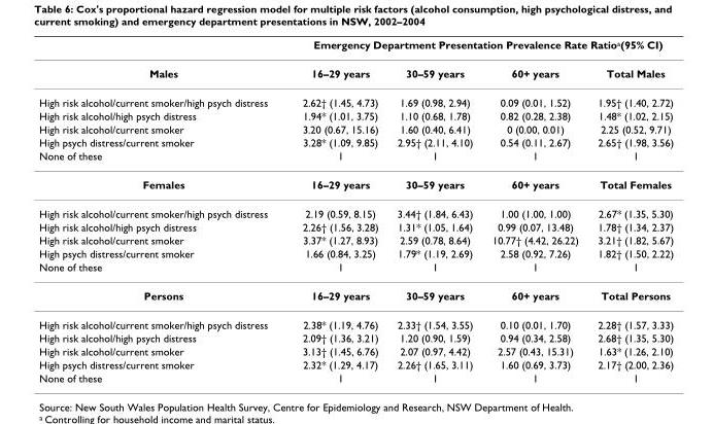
<table><thead><tr><td rowspan="2">Males</td><td colspan="4">Emergency Department Presentation Prevalence Rate Ratio<sup>a</sup>(95% CI)</td></tr><tr><td>16–29 years</td><td>30–59 years</td><td>60+ years</td><td>Total Males</td></tr></thead><tbody><tr><td>High risk alcohol/current smoker/high psych distress</td><td>2.62† (1.45, 4.73)</td><td>1.69 (0.98, 2.94)</td><td>0.09 (0.01, 1.52)</td><td>1.95† (1.40, 2.72)</td></tr><tr><td>High risk alcohol/high psych distress</td><td>1.94* (1.01, 3.75)</td><td>1.10 (0.68, 1.78)</td><td>0.82 (0.28, 2.38)</td><td>1.48* (1.02, 2.15)</td></tr><tr><td>High risk alcohol/current smoker</td><td>3.20 (0.67, 15.16)</td><td>1.60 (0.40, 6.41)</td><td>0 (0.00, 0.01)</td><td>2.25 (0.52, 9.71)</td></tr><tr><td>High psych distress/current smoker</td><td>3.28* (1.09, 9.85)</td><td>2.95† (2.11, 4.10)</td><td>0.54 (0.11, 2.67)</td><td>2.65† (1.98, 3.56)</td></tr><tr><td>None of these</td><td>1</td><td>1</td><td>1</td><td>1</td></tr><tr><td>Females</td><td>16–29 years</td><td>30–59 years</td><td>60+ years</td><td>Total Females</td></tr><tr><td>High risk alcohol/current smoker/high psych distress</td><td>2.19 (0.59, 8.15)</td><td>3.44† (1.84, 6.43)</td><td>1.00 (1.00, 1.00)</td><td>2.67* (1.35, 5.30)</td></tr><tr><td>High risk alcohol/high psych distress</td><td>2.26† (1.56, 3.28)</td><td>1.31* (1.05, 1.64)</td><td>0.99 (0.07, 13.48)</td><td>1.78† (1.34, 2.37)</td></tr><tr><td>High risk alcohol/current smoker</td><td>3.37* (1.27, 8.93)</td><td>2.59 (0.78, 8.64)</td><td>10.77† (4.42, 26.22)</td><td>3.21† (1.82, 5.67)</td></tr><tr><td>High psych distress/current smoker</td><td>1.66 (0.84, 3.25)</td><td>1.79* (1.19, 2.69)</td><td>2.58 (0.92, 7.26)</td><td>1.82† (1.50, 2.22)</td></tr><tr><td>None of these</td><td>1</td><td>1</td><td>1</td><td>1</td></tr><tr><td>Persons</td><td>16–29 years</td><td>30–59 years</td><td>60+ years</td><td>Total Persons</td></tr><tr><td>High risk alcohol/current smoker/high psych distress</td><td>2.38* (1.19, 4.76)</td><td>2.33† (1.54, 3.55)</td><td>0.10 (0.01, 1.70)</td><td>2.28† (1.57, 3.33)</td></tr><tr><td>High risk alcohol/high psych distress</td><td>2.09† (1.36, 3.21)</td><td>1.20 (0.90, 1.59)</td><td>0.94 (0.34, 2.58)</td><td>2.68† (1.35, 5.30)</td></tr><tr><td>High risk alcohol/current smoker</td><td>3.13† (1.45, 6.76)</td><td>2.07 (0.97, 4.42)</td><td>2.57 (0.43, 15.31)</td><td>1.63* (1.26, 2.10)</td></tr><tr><td>High psych distress/current smoker</td><td>2.32* (1.29, 4.17)</td><td>2.26† (1.65, 3.11)</td><td>1.60 (0.69, 3.73)</td><td>2.17† (2.00, 2.36)</td></tr><tr><td>None of these</td><td>1</td><td>1</td><td>1</td><td>1</td></tr></tbody></table>